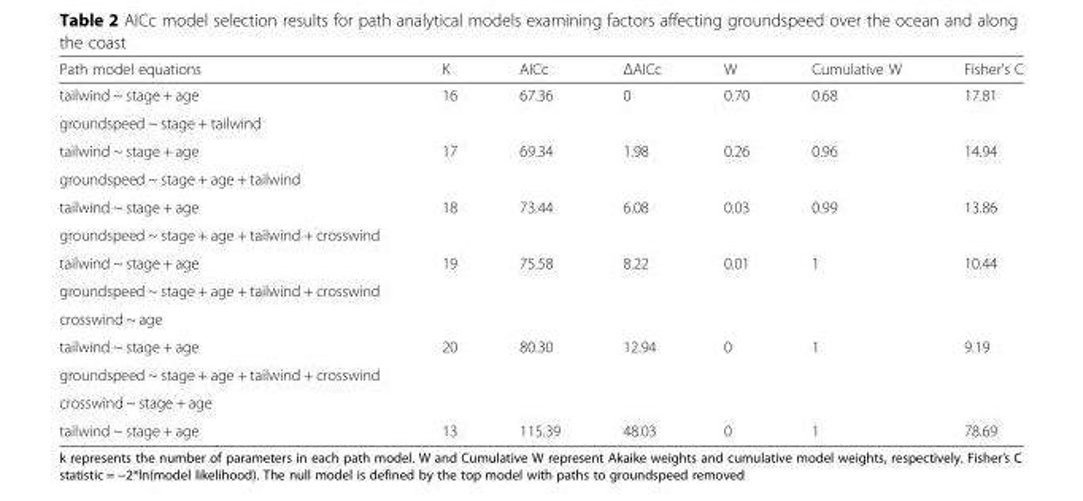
<table><thead><tr><td>Path model equations</td><td>K</td><td>AICc</td><td>ΔAICc</td><td>W</td><td>Cumulative W</td><td>Fisher’s C</td></tr></thead><tbody><tr><td>tailwind ~ stage + age</td><td rowspan="2">16</td><td rowspan="2">67.36</td><td rowspan="2">0</td><td rowspan="2">0.70</td><td rowspan="2">0.68</td><td rowspan="2">17.81</td></tr><tr><td>groundspeed ~ stage + tailwind</td></tr><tr><td>tailwind ~ stage + age</td><td rowspan="2">17</td><td rowspan="2">69.34</td><td rowspan="2">1.98</td><td rowspan="2">0.26</td><td rowspan="2">0.96</td><td rowspan="2">14.94</td></tr><tr><td>groundspeed ~ stage + age + tailwind</td></tr><tr><td>tailwind ~ stage + age</td><td rowspan="2">18</td><td rowspan="2">73.44</td><td rowspan="2">6.08</td><td rowspan="2">0.03</td><td rowspan="2">0.99</td><td rowspan="2">13.86</td></tr><tr><td>groundspeed ~ stage + age + tailwind + crosswind</td></tr><tr><td>tailwind ~ stage + age</td><td rowspan="3">19</td><td rowspan="3">75.58</td><td rowspan="3">8.22</td><td rowspan="3">0.01</td><td rowspan="3">1</td><td rowspan="3">10.44</td></tr><tr><td>groundspeed ~ stage + age + tailwind + crosswind</td></tr><tr><td>crosswind ~ age</td></tr><tr><td>tailwind ~ stage + age</td><td rowspan="3">20</td><td rowspan="3">80.30</td><td rowspan="3">12.94</td><td rowspan="3">0</td><td rowspan="3">1</td><td rowspan="3">9.19</td></tr><tr><td>groundspeed ~ stage + age + tailwind + crosswind</td></tr><tr><td>crosswind ~ stage + age</td></tr><tr><td>tailwind ~ stage + age</td><td>13</td><td>115.39</td><td>48.03</td><td>0</td><td>1</td><td>78.69</td></tr></tbody></table>